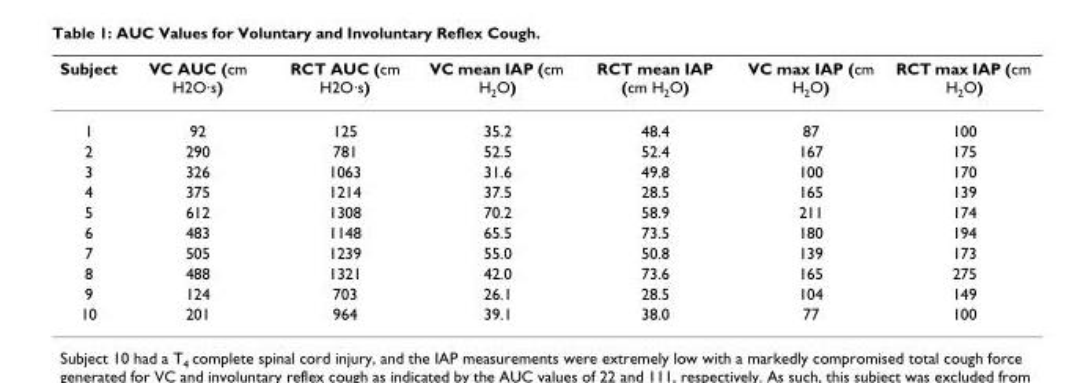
<table><thead><tr><td>Subject</td><td>VC AUC (cm H2O·s)</td><td>RCT AUC (cm H2O·s)</td><td>VC mean IAP (cm H<sub>2</sub>O)</td><td>RCT mean IAP (cm H<sub>2</sub>O)</td><td>VC max IAP (cm H<sub>2</sub>O)</td><td>RCT max IAP (cm H<sub>2</sub>O)</td></tr></thead><tbody><tr><td>1</td><td>92</td><td>125</td><td>35.2</td><td>48.4</td><td>87</td><td>100</td></tr><tr><td>2</td><td>290</td><td>781</td><td>52.5</td><td>52.4</td><td>167</td><td>175</td></tr><tr><td>3</td><td>326</td><td>1063</td><td>31.6</td><td>49.8</td><td>100</td><td>170</td></tr><tr><td>4</td><td>375</td><td>1214</td><td>37.5</td><td>28.5</td><td>165</td><td>139</td></tr><tr><td>5</td><td>612</td><td>1308</td><td>70.2</td><td>58.9</td><td>211</td><td>174</td></tr><tr><td>6</td><td>483</td><td>1148</td><td>65.5</td><td>73.5</td><td>180</td><td>194</td></tr><tr><td>7</td><td>505</td><td>1239</td><td>55.0</td><td>50.8</td><td>139</td><td>173</td></tr><tr><td>8</td><td>488</td><td>1321</td><td>42.0</td><td>73.6</td><td>165</td><td>275</td></tr><tr><td>9</td><td>124</td><td>703</td><td>26.1</td><td>28.5</td><td>104</td><td>149</td></tr><tr><td>10</td><td>201</td><td>964</td><td>39.1</td><td>38.0</td><td>77</td><td>100</td></tr></tbody></table>